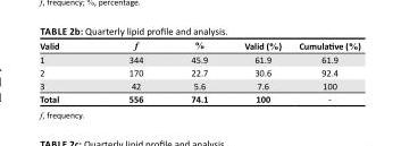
<table><thead><tr><td>Valid</td><td>f</td><td>%</td><td>Valid (%)</td><td>Cumulative (%)</td></tr></thead><tbody><tr><td>1</td><td>344</td><td>45.9</td><td>61.9</td><td>61.9</td></tr><tr><td>2</td><td>170</td><td>22.7</td><td>30.6</td><td>92.4</td></tr><tr><td>3</td><td>42</td><td>5.6</td><td>7.6</td><td>100</td></tr><tr><td>Total</td><td>556</td><td>74.1</td><td>100</td><td>-</td></tr></tbody></table>